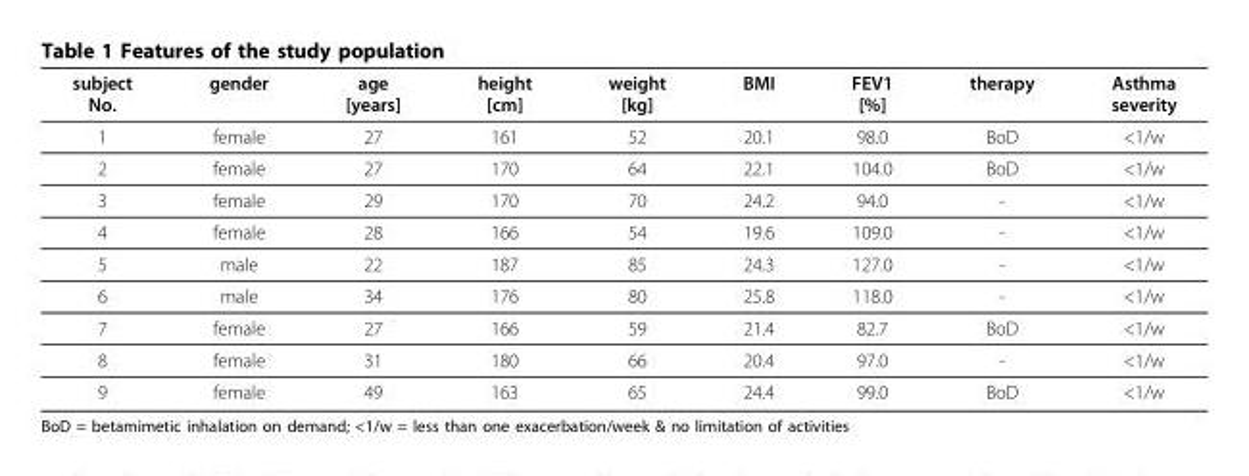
<table><thead><tr><td>subject No.</td><td>gender</td><td>age [years]</td><td>height [cm]</td><td>weight [kg]</td><td>BMI</td><td>FEV1 [%]</td><td>therapy</td><td>Asthma severity</td></tr></thead><tbody><tr><td>1</td><td>female</td><td>27</td><td>161</td><td>52</td><td>20.1</td><td>98.0</td><td>BoD</td><td>&lt;1/w</td></tr><tr><td>2</td><td>female</td><td>27</td><td>170</td><td>64</td><td>22.1</td><td>104.0</td><td>BoD</td><td>&lt;1/w</td></tr><tr><td>3</td><td>female</td><td>29</td><td>170</td><td>70</td><td>24.2</td><td>94.0</td><td>-</td><td>&lt;1/w</td></tr><tr><td>4</td><td>female</td><td>28</td><td>166</td><td>54</td><td>19.6</td><td>109.0</td><td>-</td><td>&lt;1/w</td></tr><tr><td>5</td><td>male</td><td>22</td><td>187</td><td>85</td><td>24.3</td><td>127.0</td><td>-</td><td>&lt;1/w</td></tr><tr><td>6</td><td>male</td><td>34</td><td>176</td><td>80</td><td>25.8</td><td>118.0</td><td>-</td><td>&lt;1/w</td></tr><tr><td>7</td><td>female</td><td>27</td><td>166</td><td>59</td><td>21.4</td><td>82.7</td><td>BoD</td><td>&lt;1/w</td></tr><tr><td>8</td><td>female</td><td>31</td><td>180</td><td>66</td><td>20.4</td><td>97.0</td><td>-</td><td>&lt;1/w</td></tr><tr><td>9</td><td>female</td><td>49</td><td>163</td><td>65</td><td>24.4</td><td>99.0</td><td>BoD</td><td>&lt;1/w</td></tr></tbody></table>